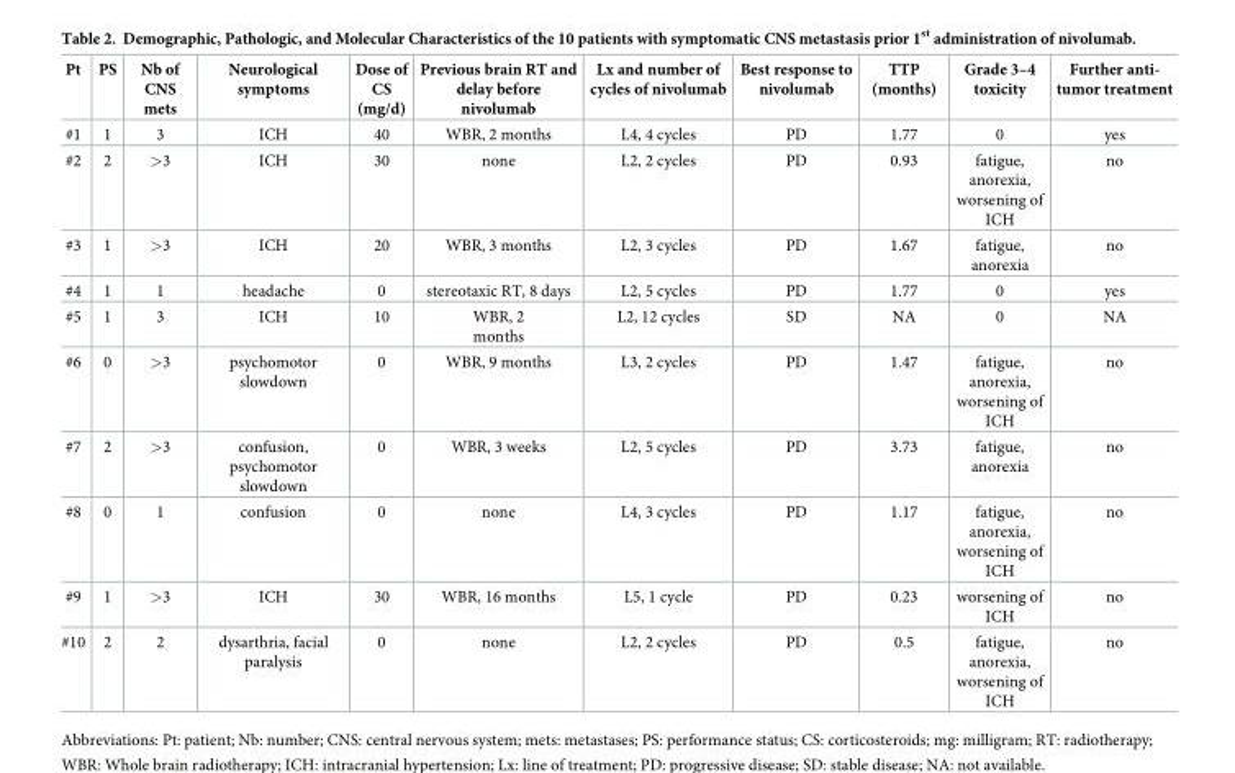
<table><thead><tr><td>Pt</td><td>PS</td><td>Nb of CNS mets</td><td>Neurological symptoms</td><td>Dose of CS (mg/d)</td><td>Previous brain RT and delay before nivolumab</td><td>Lx and number of cycles of nivolumab</td><td>Best response to nivolumab</td><td>TTP (months)</td><td>Grade 3–4 toxicity</td><td>Further anti- tumor treatment</td></tr></thead><tbody><tr><td>#1</td><td>1</td><td>3</td><td>ICH</td><td>40</td><td>WBR, 2 months</td><td>L4, 4 cycles</td><td>PD</td><td>1.77</td><td>0</td><td>yes</td></tr><tr><td>#2</td><td>2</td><td>&gt;3</td><td>ICH</td><td>30</td><td>none</td><td>L2, 2 cycles</td><td>PD</td><td>0.93</td><td>fatigue, anorexia, worsening of ICH</td><td>no</td></tr><tr><td>#3</td><td>1</td><td>&gt;3</td><td>ICH</td><td>20</td><td>WBR, 3 months</td><td>L2, 3 cycles</td><td>PD</td><td>1.67</td><td>fatigue, anorexia</td><td>no</td></tr><tr><td>#4</td><td>1</td><td>1</td><td>headache</td><td>0</td><td>stereotaxic RT, 8 days</td><td>L2, 5 cycles</td><td>PD</td><td>1.77</td><td>0</td><td>yes</td></tr><tr><td>#5</td><td>1</td><td>3</td><td>ICH</td><td>10</td><td>WBR, 2 months</td><td>L2, 12 cycles</td><td>SD</td><td>NA</td><td>0</td><td>NA</td></tr><tr><td>#6</td><td>0</td><td>&gt;3</td><td>psychomotor slowdown</td><td>0</td><td>WBR, 9 months</td><td>L3, 2 cycles</td><td>PD</td><td>1.47</td><td>fatigue, anorexia, worsening of ICH</td><td>no</td></tr><tr><td>#7</td><td>2</td><td>&gt;3</td><td>confusion, psychomotor slowdown</td><td>0</td><td>WBR, 3 weeks</td><td>L2, 5 cycles</td><td>PD</td><td>3.73</td><td>fatigue, anorexia</td><td>no</td></tr><tr><td>#8</td><td>0</td><td>1</td><td>confusion</td><td>0</td><td>none</td><td>L4, 3 cycles</td><td>PD</td><td>1.17</td><td>fatigue, anorexia, worsening of ICH</td><td>no</td></tr><tr><td>#9</td><td>1</td><td>&gt;3</td><td>ICH</td><td>30</td><td>WBR, 16 months</td><td>L5, 1 cycle</td><td>PD</td><td>0.23</td><td>worsening of ICH</td><td>no</td></tr><tr><td>#10</td><td>2</td><td>2</td><td>dysarthria, facial paralysis</td><td>0</td><td>none</td><td>L2, 2 cycles</td><td>PD</td><td>0.5</td><td>fatigue, anorexia, worsening of ICH</td><td>no</td></tr></tbody></table>